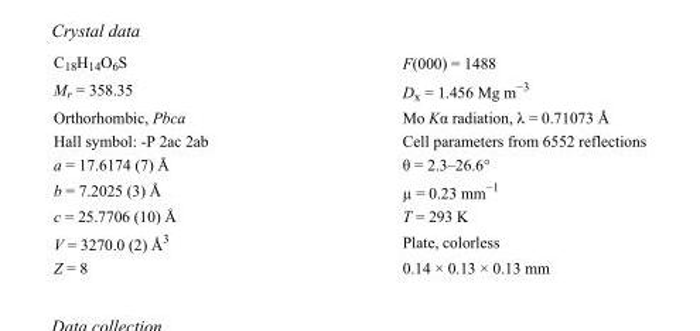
<table><tbody><tr><td>C<sub>18</sub>H<sub>14</sub>O<sub>6</sub>S</td><td>F(000) = 1488</td></tr><tr><td>M<sub>r</sub> = 358.35</td><td>D<sub>x</sub> = 1.456 Mg m<sup>−3</sup></td></tr><tr><td>Orthorhombic, Pbca</td><td>Mo Kα radiation, λ = 0.71073 Å</td></tr><tr><td>Hall symbol: -P 2ac 2ab</td><td>Cell parameters from 6552 reflections</td></tr><tr><td>a = 17.6174 (7) Å</td><td>θ = 2.3–26.6°</td></tr><tr><td>b = 7.2025 (3) Å</td><td>µ = 0.23 mm<sup>−1</sup></td></tr><tr><td>c = 25.7706 (10) Å</td><td>T = 293 K</td></tr><tr><td>V = 3270.0 (2) Å<sup>3</sup></td><td>Plate, colorless</td></tr><tr><td>Z = 8</td><td>0.14 × 0.13 × 0.13 mm</td></tr></tbody></table>